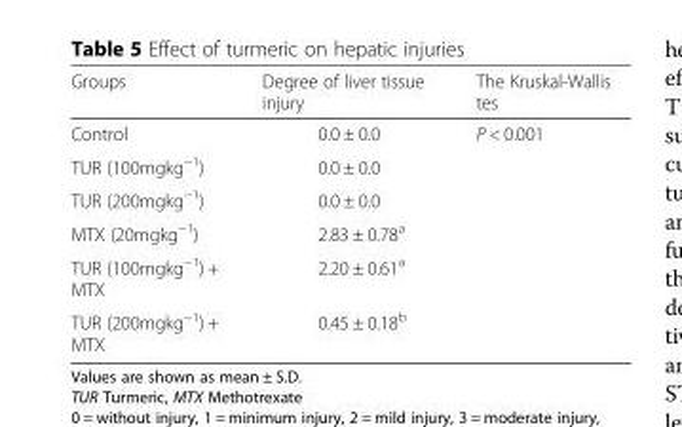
<table><thead><tr><td>Groups</td><td>Degree of liver tissue injury</td><td>The Kruskal-Wallis tes</td></tr></thead><tbody><tr><td>Control</td><td>0.0 ± 0.0</td><td rowspan="6">P &lt; 0.001</td></tr><tr><td>TUR (100mgkg<sup>−1</sup>)</td><td>0.0 ± 0.0</td></tr><tr><td>TUR (200mgkg<sup>−1</sup>)</td><td>0.0 ± 0.0</td></tr><tr><td>MTX (20mgkg<sup>−1</sup>)</td><td>2.83 ± 0.78<sup>a</sup></td></tr><tr><td>TUR (100mgkg<sup>−1</sup>) + MTX</td><td>2.20 ± 0.61<sup>a</sup></td></tr><tr><td>TUR (200mgkg<sup>−1</sup>) + MTX</td><td>0.45 ± 0.18<sup>b</sup></td></tr></tbody></table>